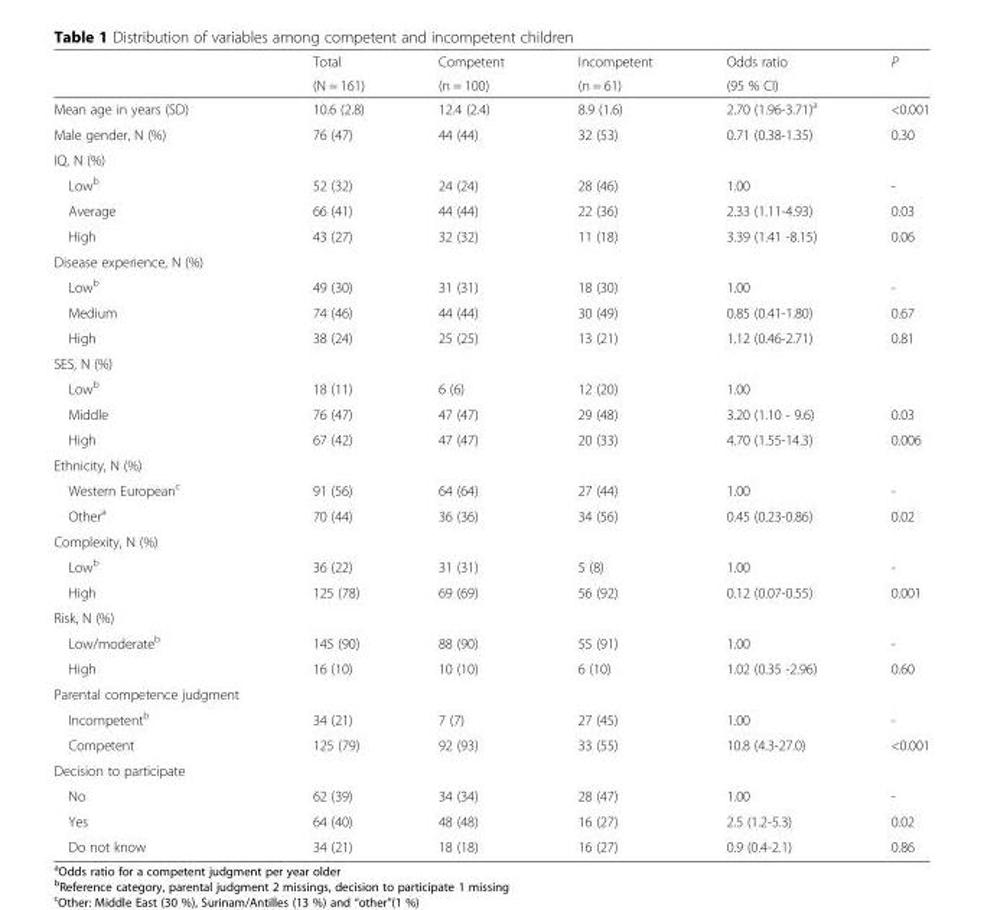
<table><thead><tr><td rowspan="2"></td><td rowspan="2">Total (N = 161)</td><td rowspan="2">Competent (n = 100)</td><td rowspan="2">Incompetent (n = 61)</td><td rowspan="2">Odds ratio (95 % CI)</td><td rowspan="2">P</td></tr><tr></tr></thead><tbody><tr><td>Mean age in years (SD)</td><td>10.6 (2.8)</td><td>12.4 (2.4)</td><td>8.9 (1.6)</td><td>2.70 (1.96-3.71)<sup>a</sup></td><td>&lt;0.001</td></tr><tr><td>Male gender, N (%)</td><td>76 (47)</td><td>44 (44)</td><td>32 (53)</td><td>0.71 (0.38-1.35)</td><td>0.30</td></tr><tr><td colspan="6">IQ, N (%)</td></tr><tr><td>Low<sup>b</sup></td><td>52 (32)</td><td>24 (24)</td><td>28 (46)</td><td>1.00</td><td>-</td></tr><tr><td>Average</td><td>66 (41)</td><td>44 (44)</td><td>22 (36)</td><td>2.33 (1.11-4.93)</td><td>0.03</td></tr><tr><td>High</td><td>43 (27)</td><td>32 (32)</td><td>11 (18)</td><td>3.39 (1.41 -8.15)</td><td>0.06</td></tr><tr><td colspan="6">Disease experience, N (%)</td></tr><tr><td>Low<sup>b</sup></td><td>49 (30)</td><td>31 (31)</td><td>18 (30)</td><td>1.00</td><td>-</td></tr><tr><td>Medium</td><td>74 (46)</td><td>44 (44)</td><td>30 (49)</td><td>0.85 (0.41-1.80)</td><td>0.67</td></tr><tr><td>High</td><td>38 (24)</td><td>25 (25)</td><td>13 (21)</td><td>1.12 (0.46-2.71)</td><td>0.81</td></tr><tr><td colspan="6">SES, N (%)</td></tr><tr><td>Low<sup>b</sup></td><td>18 (11)</td><td>6 (6)</td><td>12 (20)</td><td>1.00</td><td></td></tr><tr><td>Middle</td><td>76 (47)</td><td>47 (47)</td><td>29 (48)</td><td>3.20 (1.10 - 9.6)</td><td>0.03</td></tr><tr><td>High</td><td>67 (42)</td><td>47 (47)</td><td>20 (33)</td><td>4.70 (1.55-14.3)</td><td>0.006</td></tr><tr><td colspan="6">Ethnicity, N (%)</td></tr><tr><td>Western European<sup>c</sup></td><td>91 (56)</td><td>64 (64)</td><td>27 (44)</td><td>1.00</td><td>-</td></tr><tr><td>Other<sup>a</sup></td><td>70 (44)</td><td>36 (36)</td><td>34 (56)</td><td>0.45 (0.23-0.86)</td><td>0.02</td></tr><tr><td colspan="6">Complexity, N (%)</td></tr><tr><td>Low<sup>b</sup></td><td>36 (22)</td><td>31 (31)</td><td>5 (8)</td><td>1.00</td><td>-</td></tr><tr><td>High</td><td>125 (78)</td><td>69 (69)</td><td>56 (92)</td><td>0.12 (0.07-0.55)</td><td>0.001</td></tr><tr><td colspan="6">Risk, N (%)</td></tr><tr><td>Low/moderate<sup>b</sup></td><td>145 (90)</td><td>88 (90)</td><td>55 (91)</td><td>1.00</td><td>-</td></tr><tr><td>High</td><td>16 (10)</td><td>10 (10)</td><td>6 (10)</td><td>1.02 (0.35 -2.96)</td><td>0.60</td></tr><tr><td colspan="6">Parental competence judgment</td></tr><tr><td>Incompetent<sup>b</sup></td><td>34 (21)</td><td>7 (7)</td><td>27 (45)</td><td>1.00</td><td>-</td></tr><tr><td>Competent</td><td>125 (79)</td><td>92 (93)</td><td>33 (55)</td><td>10.8 (4.3-27.0)</td><td>&lt;0.001</td></tr><tr><td colspan="6">Decision to participate</td></tr><tr><td>No</td><td>62 (39)</td><td>34 (34)</td><td>28 (47)</td><td>1.00</td><td>-</td></tr><tr><td>Yes</td><td>64 (40)</td><td>48 (48)</td><td>16 (27)</td><td>2.5 (1.2-5.3)</td><td>0.02</td></tr><tr><td>Do not know</td><td>34 (21)</td><td>18 (18)</td><td>16 (27)</td><td>0.9 (0.4-2.1)</td><td>0.86</td></tr></tbody></table>